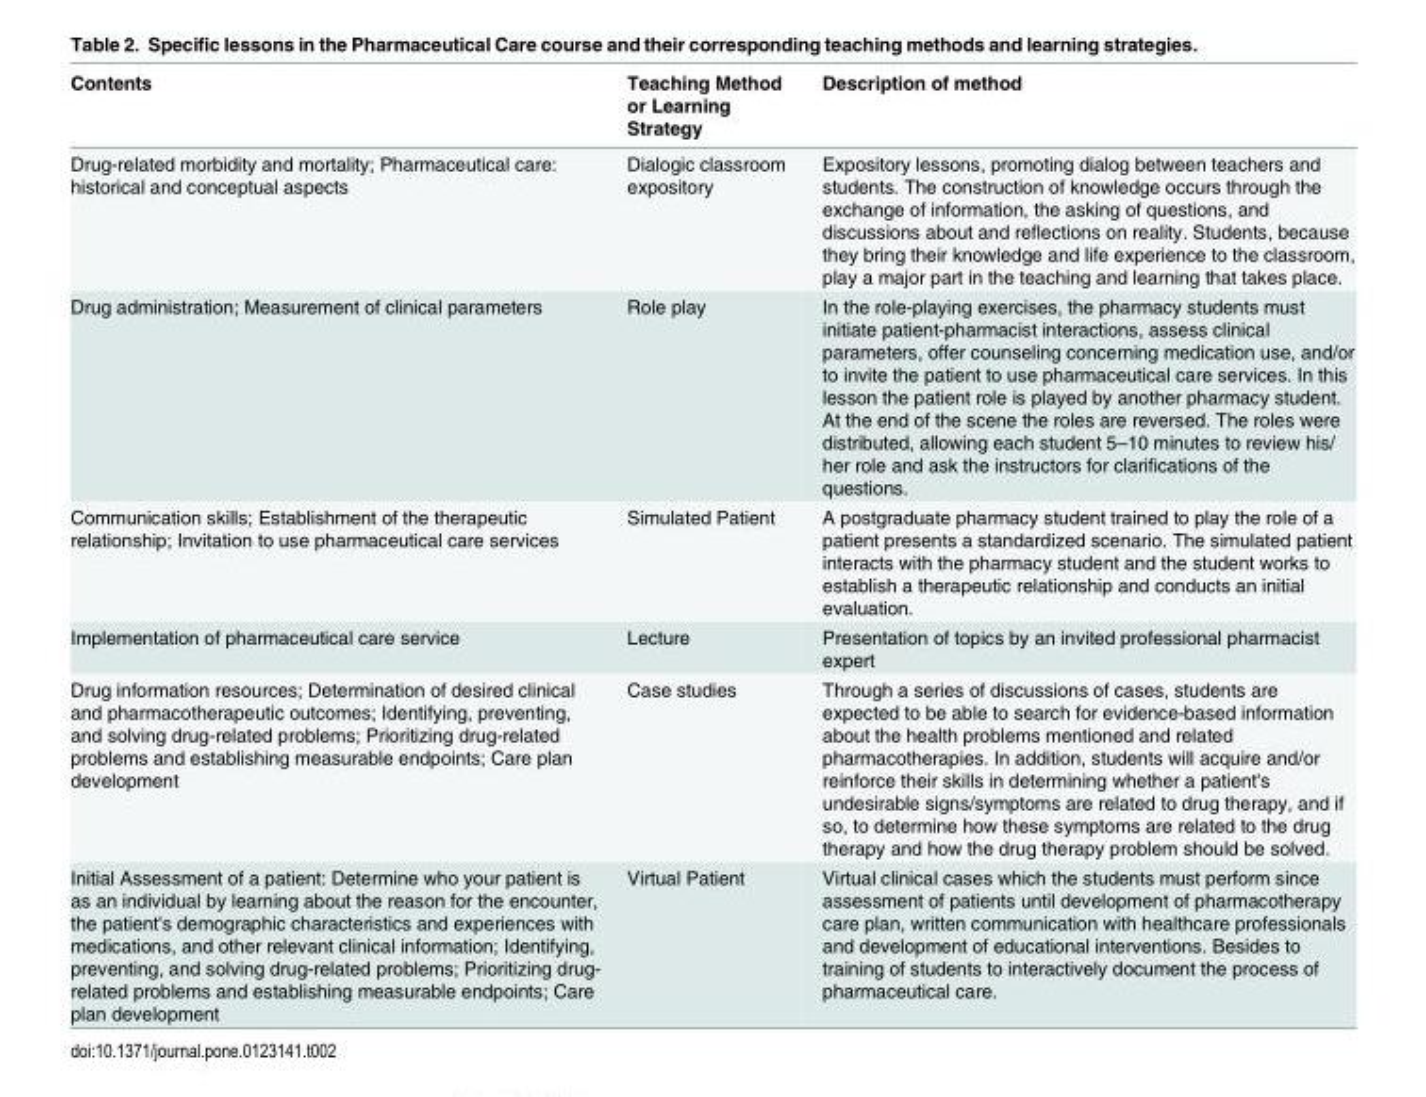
<table><thead><tr><td>Contents</td><td>Teaching Method or Learning Strategy</td><td>Description of method</td></tr></thead><tbody><tr><td>Drug-related morbidity and mortality; Pharmaceutical care: historical and conceptual aspects</td><td>Dialogic classroom expository</td><td>Expository lessons, promoting dialog between teachers and students. The construction of knowledge occurs through the exchange of information, the asking of questions, and discussions about and reflections on reality. Students, because they bring their knowledge and life experience to the classroom, play a major part in the teaching and learning that takes place.</td></tr><tr><td>Drug administration; Measurement of clinical parameters</td><td>Role play</td><td>In the role-playing exercises, the pharmacy students must initiate patient-pharmacist interactions, assess clinical parameters, offer counseling concerning medication use, and/or to invite the patient to use pharmaceutical care services. In this lesson the patient role is played by another pharmacy student. At the end of the scene the roles are reversed. The roles were distributed, allowing each student 5–10 minutes to review his/ her role and ask the instructors for clarifications of the questions.</td></tr><tr><td>Communication skills; Establishment of the therapeutic relationship; Invitation to use pharmaceutical care services</td><td>Simulated Patient</td><td>A postgraduate pharmacy student trained to play the role of a patient presents a standardized scenario. The simulated patient interacts with the pharmacy student and the student works to establish a therapeutic relationship and conducts an initial evaluation.</td></tr><tr><td>Implementation of pharmaceutical care service</td><td>Lecture</td><td>Presentation of topics by an invited professional pharmacist expert</td></tr><tr><td>Drug information resources; Determination of desired clinical and pharmacotherapeutic outcomes; Identifying, preventing, and solving drug-related problems; Prioritizing drug-related problems and establishing measurable endpoints; Care plan development</td><td>Case studies</td><td>Through a series of discussions of cases, students are expected to be able to search for evidence-based information about the health problems mentioned and related pharmacotherapies. In addition, students will acquire and/or reinforce their skills in determining whether a patient&#x27;s undesirable signs/symptoms are related to drug therapy, and if so, to determine how these symptoms are related to the drug therapy and how the drug therapy problem should be solved.</td></tr><tr><td>Initial Assessment of a patient: Determine who your patient is as an individual by learning about the reason for the encounter, the patient&#x27;s demographic characteristics and experiences with medications, and other relevant clinical information; Identifying, preventing, and solving drug-related problems; Prioritizing drug- related problems and establishing measurable endpoints; Care plan development</td><td>Virtual Patient</td><td>Virtual clinical cases which the students must perform since assessment of patients until development of pharmacotherapy care plan, written communication with healthcare professionals and development of educational interventions. Besides to training of students to interactively document the process of pharmaceutical care.</td></tr></tbody></table>